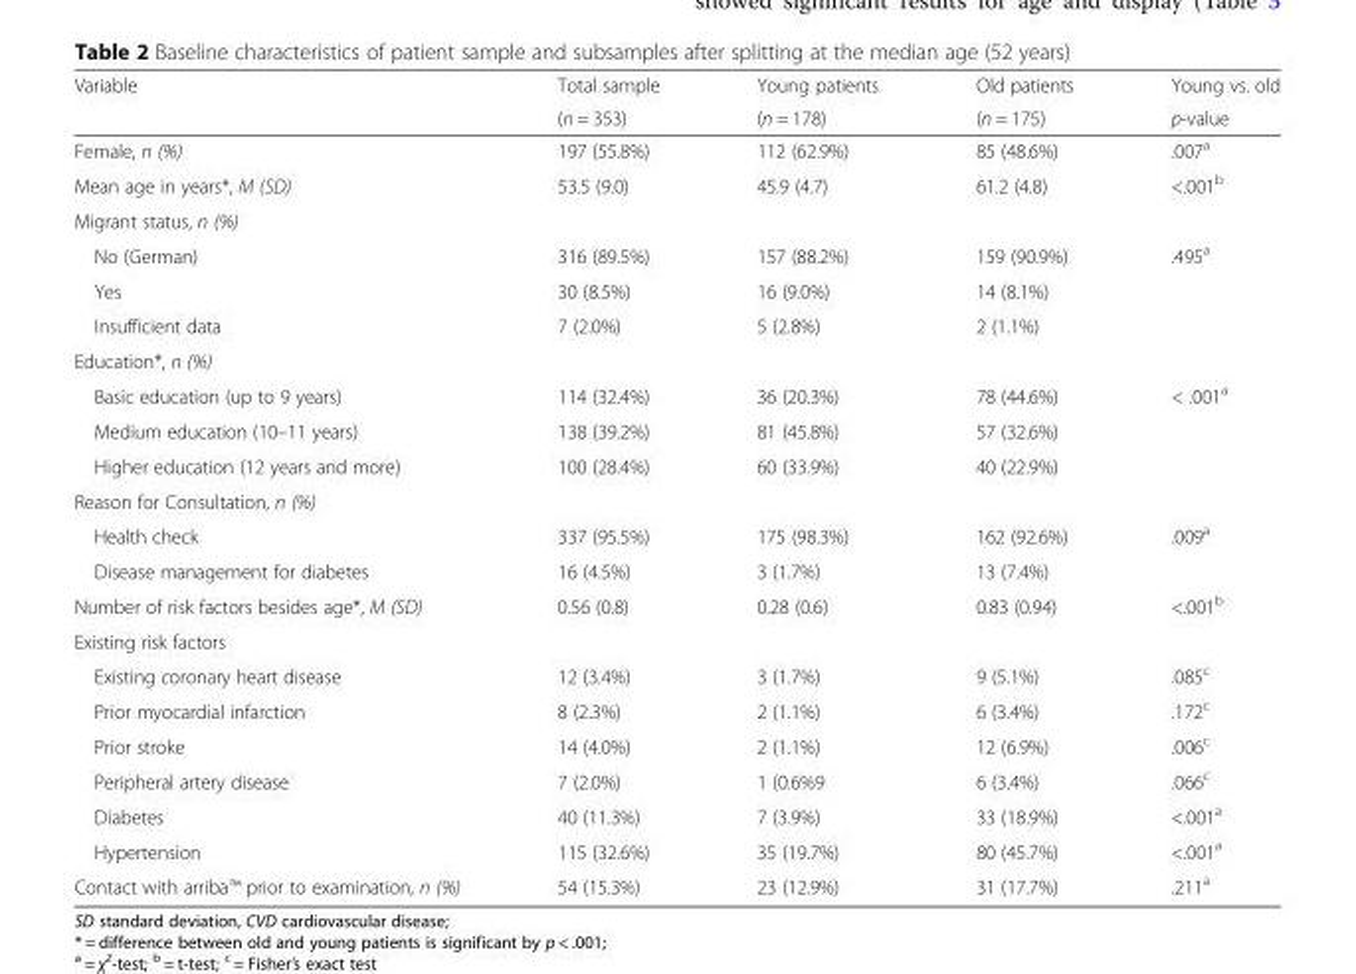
<table><thead><tr><td rowspan="2">Variable</td><td rowspan="2">Total sample (n = 353)</td><td rowspan="2">Young patients (n = 178)</td><td rowspan="2">Old patients (n = 175)</td><td rowspan="2">Young vs. old p-value</td></tr><tr></tr></thead><tbody><tr><td>Female, n (%)</td><td>197 (55.8%)</td><td>112 (62.9%)</td><td>85 (48.6%)</td><td>.007<sup>a</sup></td></tr><tr><td>Mean age in years*, M (SD)</td><td>53.5 (9.0)</td><td>45.9 (4.7)</td><td>61.2 (4.8)</td><td>&lt;.001<sup>b</sup></td></tr><tr><td colspan="5">Migrant status, n (%)</td></tr><tr><td>No (German)</td><td>316 (89.5%)</td><td>157 (88.2%)</td><td>159 (90.9%)</td><td>.495<sup>a</sup></td></tr><tr><td>Yes</td><td>30 (8.5%)</td><td>16 (9.0%)</td><td>14 (8.1%)</td><td></td></tr><tr><td>Insufficient data</td><td>7 (2.0%)</td><td>5 (2.8%)</td><td>2 (1.1%)</td><td></td></tr><tr><td colspan="5">Education*, n (%)</td></tr><tr><td>Basic education (up to 9 years)</td><td>114 (32.4%)</td><td>36 (20.3%)</td><td>78 (44.6%)</td><td>&lt; .001<sup>a</sup></td></tr><tr><td>Medium education (10–11 years)</td><td>138 (39.2%)</td><td>81 (45.8%)</td><td>57 (32.6%)</td><td></td></tr><tr><td>Higher education (12 years and more)</td><td>100 (28.4%)</td><td>60 (33.9%)</td><td>40 (22.9%)</td><td></td></tr><tr><td colspan="5">Reason for Consultation, n (%)</td></tr><tr><td>Health check</td><td>337 (95.5%)</td><td>175 (98.3%)</td><td>162 (92.6%)</td><td>.009<sup>a</sup></td></tr><tr><td>Disease management for diabetes</td><td>16 (4.5%)</td><td>3 (1.7%)</td><td>13 (7.4%)</td><td></td></tr><tr><td>Number of risk factors besides age*, M (SD)</td><td>0.56 (0.8)</td><td>0.28 (0.6)</td><td>0.83 (0.94)</td><td>&lt;.001<sup>b</sup></td></tr><tr><td colspan="5">Existing risk factors</td></tr><tr><td>Existing coronary heart disease</td><td>12 (3.4%)</td><td>3 (1.7%)</td><td>9 (5.1%)</td><td>.085<sup>c</sup></td></tr><tr><td>Prior myocardial infarction</td><td>8 (2.3%)</td><td>2 (1.1%)</td><td>6 (3.4%)</td><td>.172<sup>c</sup></td></tr><tr><td>Prior stroke</td><td>14 (4.0%)</td><td>2 (1.1%)</td><td>12 (6.9%)</td><td>.006<sup>c</sup></td></tr><tr><td>Peripheral artery disease</td><td>7 (2.0%)</td><td>1 (0.6%9</td><td>6 (3.4%)</td><td>.066<sup>c</sup></td></tr><tr><td>Diabetes</td><td>40 (11.3%)</td><td>7 (3.9%)</td><td>33 (18.9%)</td><td>&lt;.001<sup>a</sup></td></tr><tr><td>Hypertension</td><td>115 (32.6%)</td><td>35 (19.7%)</td><td>80 (45.7%)</td><td>&lt;.001<sup>a</sup></td></tr><tr><td>Contact with arriba™ prior to examination, n (%)</td><td>54 (15.3%)</td><td>23 (12.9%)</td><td>31 (17.7%)</td><td>.211<sup>a</sup></td></tr></tbody></table>